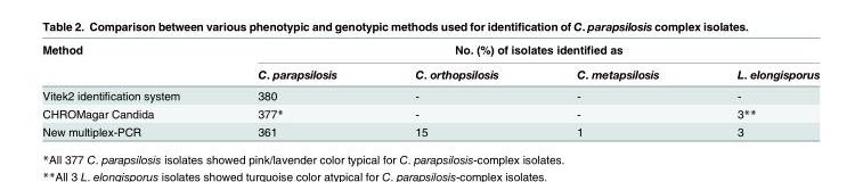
<table><thead><tr><td rowspan="2">Method</td><td colspan="4">No. (%) of isolates identified as</td></tr><tr><td>C. parapsilosis</td><td>C. orthopsilosis</td><td>C. metapsilosis</td><td>L. elongisporus</td></tr></thead><tbody><tr><td>Vitek2 identification system</td><td>380</td><td>-</td><td>-</td><td>-</td></tr><tr><td>CHROMagar Candida</td><td>377*</td><td>-</td><td>-</td><td>3**</td></tr><tr><td>New multiplex-PCR</td><td>361</td><td>15</td><td>1</td><td>3</td></tr></tbody></table>